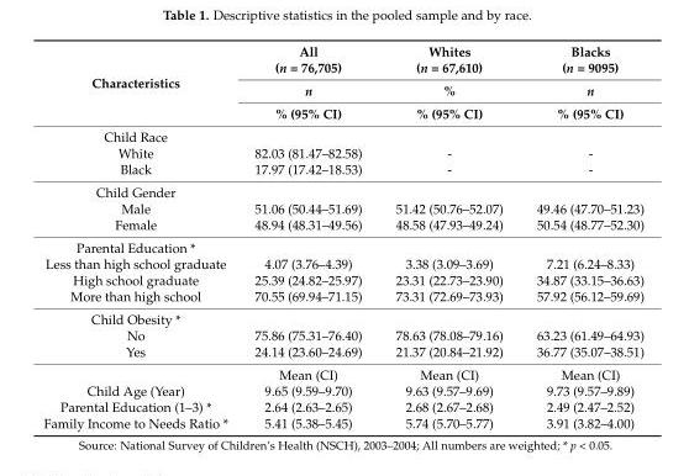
<table><thead><tr><td rowspan="3">Characteristics</td><td rowspan="3">All (n = 76,705) n % (95% CI)</td><td rowspan="3">Whites (n = 67,610) % % (95% CI)</td><td rowspan="3">Blacks (n = 9095) n % (95% CI)</td></tr><tr></tr><tr></tr></thead><tbody><tr><td colspan="4">Child Race</td></tr><tr><td>White</td><td>82.03 (81.47–82.58)</td><td>-</td><td>-</td></tr><tr><td>Black</td><td>17.97 (17.42–18.53)</td><td>-</td><td>-</td></tr><tr><td colspan="4">Child Gender</td></tr><tr><td>Male</td><td>51.06 (50.44–51.69)</td><td>51.42 (50.76–52.07)</td><td>49.46 (47.70–51.23)</td></tr><tr><td>Female</td><td>48.94 (48.31–49.56)</td><td>48.58 (47.93–49.24)</td><td>50.54 (48.77–52.30)</td></tr><tr><td colspan="4">Parental Education *</td></tr><tr><td>Less than high school graduate</td><td>4.07 (3.76–4.39)</td><td>3.38 (3.09–3.69)</td><td>7.21 (6.24–8.33)</td></tr><tr><td>High school graduate</td><td>25.39 (24.82–25.97)</td><td>23.31 (22.73–23.90)</td><td>34.87 (33.15–36.63)</td></tr><tr><td>More than high school</td><td>70.55 (69.94–71.15)</td><td>73.31 (72.69–73.93)</td><td>57.92 (56.12–59.69)</td></tr><tr><td colspan="4">Child Obesity *</td></tr><tr><td>No</td><td>75.86 (75.31–76.40)</td><td>78.63 (78.08–79.16)</td><td>63.23 (61.49–64.93)</td></tr><tr><td rowspan="2">Yes</td><td>24.14 (23.60–24.69)</td><td>21.37 (20.84–21.92)</td><td>36.77 (35.07–38.51)</td></tr><tr><td>Mean (CI)</td><td>Mean (CI)</td><td>Mean (CI)</td></tr><tr><td>Child Age (Year)</td><td>9.65 (9.59–9.70)</td><td>9.63 (9.57–9.69)</td><td>9.73 (9.57–9.89)</td></tr><tr><td>Parental Education (1–3) *</td><td>2.64 (2.63–2.65)</td><td>2.68 (2.67–2.68)</td><td>2.49 (2.47–2.52)</td></tr><tr><td>Family Income to Needs Ratio *</td><td>5.41 (5.38–5.45)</td><td>5.74 (5.70–5.77)</td><td>3.91 (3.82–4.00)</td></tr></tbody></table>